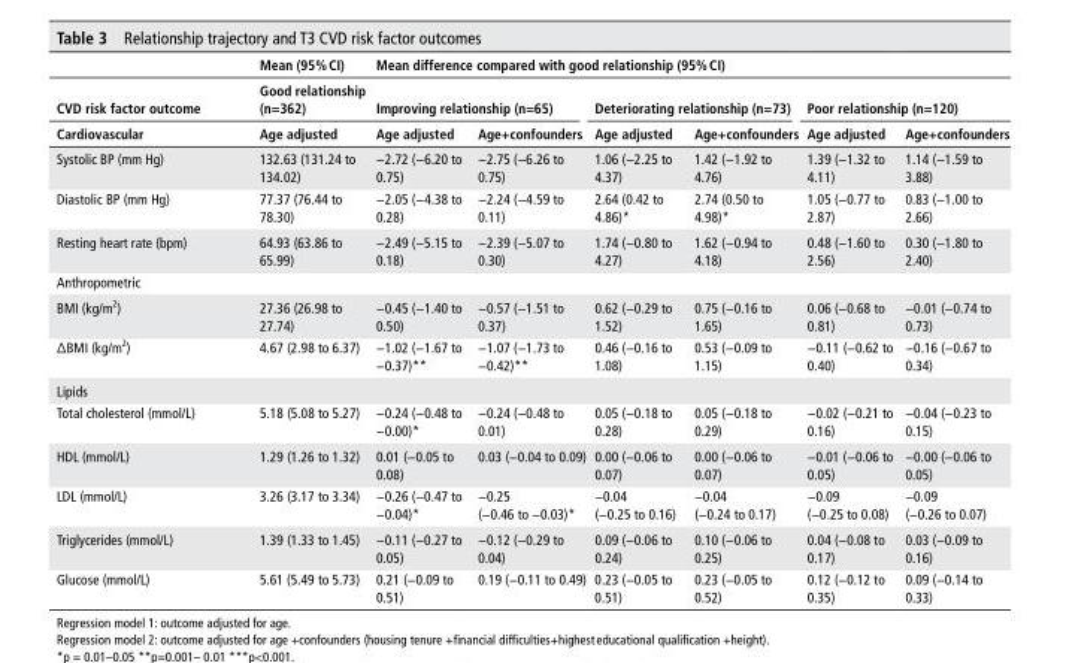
<table><thead><tr><td rowspan="3">cVd risk factor outcome cardiovascular</td><td rowspan="3">Mean (95% cI) good relationship (n=362) Age adjusted</td><td colspan="6">Mean difference compared with good relationship (95% cI)</td></tr><tr><td colspan="2">Improving relationship (n=65)</td><td colspan="2">deteriorating relationship (n=73)</td><td colspan="2">Poor relationship (n=120)</td></tr><tr><td>Age adjusted</td><td>Age+confounders</td><td>Age adjusted</td><td>Age+confounders</td><td>Age adjusted</td><td>Age+confounders</td></tr></thead><tbody><tr><td>Systolic BP (mm Hg)</td><td>132.63 (131.24 to 134.02)</td><td>−2.72 (−6.20 to 0.75)</td><td>−2.75 (−6.26 to 0.75)</td><td>1.06 (−2.25 to 4.37)</td><td>1.42 (−1.92 to 4.76)</td><td>1.39 (−1.32 to 4.11)</td><td>1.14 (−1.59 to 3.88)</td></tr><tr><td>Diastolic BP (mm Hg)</td><td>77.37 (76.44 to 78.30)</td><td>−2.05 (−4.38 to 0.28)</td><td>−2.24 (−4.59 to 0.11)</td><td>2.64 (0.42 to 4.86)*</td><td>2.74 (0.50 to 4.98)*</td><td>1.05 (−0.77 to 2.87)</td><td>0.83 (−1.00 to 2.66)</td></tr><tr><td>Resting heart rate (bpm)</td><td>64.93 (63.86 to 65.99)</td><td>−2.49 (−5.15 to 0.18)</td><td>−2.39 (−5.07 to 0.30)</td><td>1.74 (−0.80 to 4.27)</td><td>1.62 (−0.94 to 4.18)</td><td>0.48 (−1.60 to 2.56)</td><td>0.30 (−1.80 to 2.40)</td></tr><tr><td colspan="8">Anthropometric</td></tr><tr><td>BMI (kg/m<sup>2</sup>)</td><td>27.36 (26.98 to 27.74)</td><td>−0.45 (−1.40 to 0.50)</td><td>−0.57 (−1.51 to 0.37)</td><td>0.62 (−0.29 to 1.52)</td><td>0.75 (−0.16 to 1.65)</td><td>0.06 (−0.68 to 0.81)</td><td>−0.01 (−0.74 to 0.73)</td></tr><tr><td>∆BMI (kg/m<sup>2</sup>)</td><td>4.67 (2.98 to 6.37)</td><td>−1.02 (−1.67 to −0.37)**</td><td>−1.07 (−1.73 to −0.42)**</td><td>0.46 (−0.16 to 1.08)</td><td>0.53 (−0.09 to 1.15)</td><td>−0.11 (−0.62 to 0.40)</td><td>−0.16 (−0.67 to 0.34)</td></tr><tr><td colspan="8">Lipids</td></tr><tr><td>Total cholesterol (mmol/L)</td><td>5.18 (5.08 to 5.27)</td><td>−0.24 (−0.48 to −0.00)*</td><td>−0.24 (−0.48 to 0.01)</td><td>0.05 (−0.18 to 0.28)</td><td>0.05 (−0.18 to 0.29)</td><td>−0.02 (−0.21 to 0.16)</td><td>−0.04 (−0.23 to 0.15)</td></tr><tr><td>HDL (mmol/L)</td><td>1.29 (1.26 to 1.32)</td><td>0.01 (−0.05 to 0.08)</td><td>0.03 (−0.04 to 0.09)</td><td>0.00 (−0.06 to 0.07)</td><td>0.00 (−0.06 to 0.07)</td><td>−0.01 (−0.06 to 0.05)</td><td>−0.00 (−0.06 to 0.05)</td></tr><tr><td>LDL (mmol/L)</td><td>3.26 (3.17 to 3.34)</td><td>−0.26 (−0.47 to −0.04)*</td><td>−0.25 (−0.46 to −0.03)*</td><td>−0.04 (−0.25 to 0.16)</td><td>−0.04 (−0.24 to 0.17)</td><td>−0.09 (−0.25 to 0.08)</td><td>−0.09 (−0.26 to 0.07)</td></tr><tr><td>Triglycerides (mmol/L)</td><td>1.39 (1.33 to 1.45)</td><td>−0.11 (−0.27 to 0.05)</td><td>−0.12 (−0.29 to 0.04)</td><td>0.09 (−0.06 to 0.24)</td><td>0.10 (−0.06 to 0.25)</td><td>0.04 (−0.08 to 0.17)</td><td>0.03 (−0.09 to 0.16)</td></tr><tr><td>Glucose (mmol/L)</td><td>5.61 (5.49 to 5.73)</td><td>0.21 (−0.09 to 0.51)</td><td>0.19 (−0.11 to 0.49)</td><td>0.23 (−0.05 to 0.51)</td><td>0.23 (−0.05 to 0.52)</td><td>0.12 (−0.12 to 0.35)</td><td>0.09 (−0.14 to 0.33)</td></tr></tbody></table>